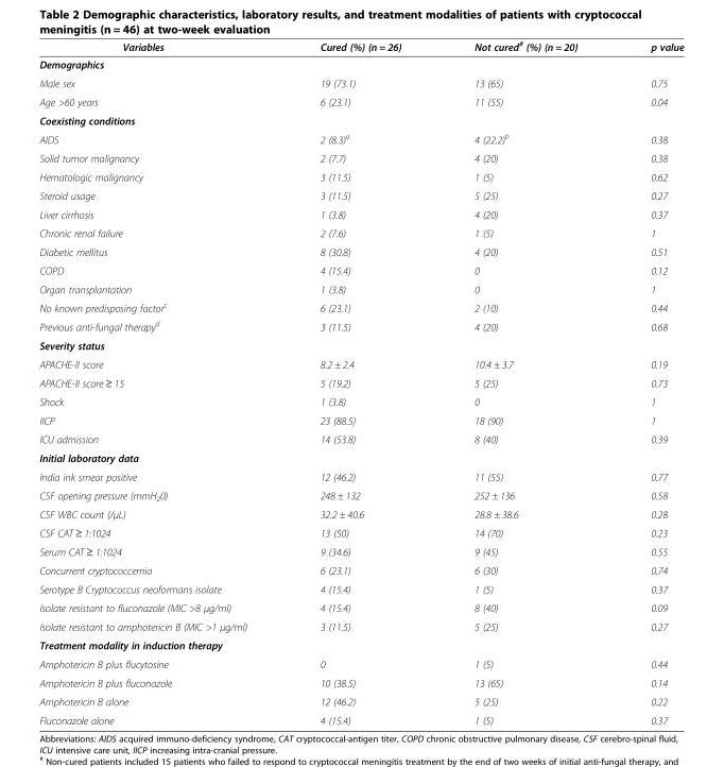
<table><thead><tr><td>Variables</td><td>Cured (%) (n = 26)</td><td>Not cured<sup>#</sup> (%) (n = 20)</td><td>p value</td></tr></thead><tbody><tr><td colspan="4">Demographics</td></tr><tr><td>Male sex</td><td>19 (73.1)</td><td>13 (65)</td><td>0.75</td></tr><tr><td>Age &gt;60 years</td><td>6 (23.1)</td><td>11 (55)</td><td>0.04</td></tr><tr><td colspan="4">Coexisting conditions</td></tr><tr><td>AIDS</td><td>2 (8.3)<sup>a</sup></td><td>4 (22.2)<sup>b</sup></td><td>0.38</td></tr><tr><td>Solid tumor malignancy</td><td>2 (7.7)</td><td>4 (20)</td><td>0.38</td></tr><tr><td>Hematologic malignancy</td><td>3 (11.5)</td><td>1 (5)</td><td>0.62</td></tr><tr><td>Steroid usage</td><td>3 (11.5)</td><td>5 (25)</td><td>0.27</td></tr><tr><td>Liver cirrhosis</td><td>1 (3.8)</td><td>4 (20)</td><td>0.37</td></tr><tr><td>Chronic renal failure</td><td>2 (7.6)</td><td>1 (5)</td><td>1</td></tr><tr><td>Diabetic mellitus</td><td>8 (30.8)</td><td>4 (20)</td><td>0.51</td></tr><tr><td>COPD</td><td>4 (15.4)</td><td>0</td><td>0.12</td></tr><tr><td>Organ transplantation</td><td>1 (3.8)</td><td>0</td><td>1</td></tr><tr><td>No known predisposing factor<sup>c</sup></td><td>6 (23.1)</td><td>2 (10)</td><td>0.44</td></tr><tr><td>Previous anti-fungal therapy<sup>d</sup></td><td>3 (11.5)</td><td>4 (20)</td><td>0.68</td></tr><tr><td colspan="4">Severity status</td></tr><tr><td>APACHE-II score</td><td>8.2 ± 2.4</td><td>10.4 ± 3.7</td><td>0.19</td></tr><tr><td>APACHE-II score ≥ 15</td><td>5 (19.2)</td><td>5 (25)</td><td>0.73</td></tr><tr><td>Shock</td><td>1 (3.8)</td><td>0</td><td>1</td></tr><tr><td>IICP</td><td>23 (88.5)</td><td>18 (90)</td><td>1</td></tr><tr><td>ICU admission</td><td>14 (53.8)</td><td>8 (40)</td><td>0.39</td></tr><tr><td colspan="4">Initial laboratory data</td></tr><tr><td>India ink smear positive</td><td>12 (46.2)</td><td>11 (55)</td><td>0.77</td></tr><tr><td>CSF opening pressure (mmH<sub>2</sub>0)</td><td>248 ± 132</td><td>252 ± 136</td><td>0.58</td></tr><tr><td>CSF WBC count (/μL)</td><td>32.2 ± 40.6</td><td>28.8 ± 38.6</td><td>0.28</td></tr><tr><td>CSF CAT ≥ 1:1024</td><td>13 (50)</td><td>14 (70)</td><td>0.23</td></tr><tr><td>Serum CAT ≥ 1:1024</td><td>9 (34.6)</td><td>9 (45)</td><td>0.55</td></tr><tr><td>Concurrent cryptococcemia</td><td>6 (23.1)</td><td>6 (30)</td><td>0.74</td></tr><tr><td>Serotype B Cryptococcus neoformans isolate</td><td>4 (15.4)</td><td>1 (5)</td><td>0.37</td></tr><tr><td>Isolate resistant to fluconazole (MIC &gt;8 μg/ml)</td><td>4 (15.4)</td><td>8 (40)</td><td>0.09</td></tr><tr><td>Isolate resistant to amphotericin B (MIC &gt;1 μg/ml)</td><td>3 (11.5)</td><td>5 (25)</td><td>0.27</td></tr><tr><td colspan="4">Treatment modality in induction therapy</td></tr><tr><td>Amphotericin B plus flucytosine</td><td>0</td><td>1 (5)</td><td>0.44</td></tr><tr><td>Amphotericin B plus fluconazole</td><td>10 (38.5)</td><td>13 (65)</td><td>0.14</td></tr><tr><td>Amphotericin B alone</td><td>12 (46.2)</td><td>5 (25)</td><td>0.22</td></tr><tr><td>Fluconazole alone</td><td>4 (15.4)</td><td>1 (5)</td><td>0.37</td></tr></tbody></table>